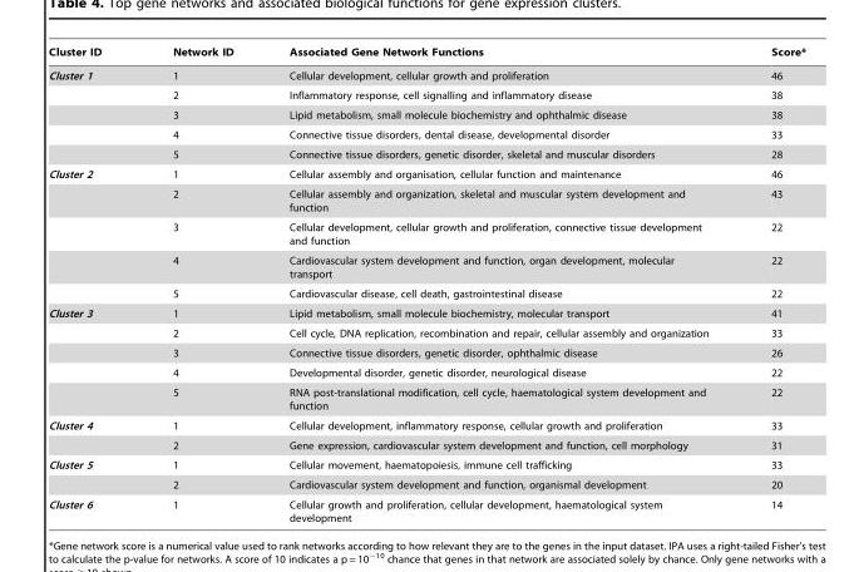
<table><thead><tr><td>Cluster ID</td><td>Network ID</td><td>Associated Gene Network Functions</td><td>Score*</td></tr></thead><tbody><tr><td rowspan="5">Cluster 1</td><td>1</td><td>Cellular development, cellular growth and proliferation</td><td>46</td></tr><tr><td>2</td><td>Inflammatory response, cell signalling and inflammatory disease</td><td>38</td></tr><tr><td>3</td><td>Lipid metabolism, small molecule biochemistry and ophthalmic disease</td><td>38</td></tr><tr><td>4</td><td>Connective tissue disorders, dental disease, developmental disorder</td><td>33</td></tr><tr><td>5</td><td>Connective tissue disorders, genetic disorder, skeletal and muscular disorders</td><td>28</td></tr><tr><td rowspan="5">Cluster 2</td><td>1</td><td>Cellular assembly and organisation, cellular function and maintenance</td><td>46</td></tr><tr><td>2</td><td>Cellular assembly and organization, skeletal and muscular system development and function</td><td>43</td></tr><tr><td>3</td><td>Cellular development, cellular growth and proliferation, connective tissue development and function</td><td>22</td></tr><tr><td>4</td><td>Cardiovascular system development and function, organ development, molecular transport</td><td>22</td></tr><tr><td>5</td><td>Cardiovascular disease, cell death, gastrointestinal disease</td><td>22</td></tr><tr><td rowspan="5">Cluster 3</td><td>1</td><td>Lipid metabolism, small molecule biochemistry, molecular transport</td><td>41</td></tr><tr><td>2</td><td>Cell cycle, DNA replication, recombination and repair, cellular assembly and organization</td><td>33</td></tr><tr><td>3</td><td>Connective tissue disorders, genetic disorder, ophthalmic disease</td><td>26</td></tr><tr><td>4</td><td>Developmental disorder, genetic disorder, neurological disease</td><td>22</td></tr><tr><td>5</td><td>RNA post-translational modification, cell cycle, haematological system development and function</td><td>22</td></tr><tr><td rowspan="2">Cluster 4</td><td>1</td><td>Cellular development, inflammatory response, cellular growth and proliferation</td><td>33</td></tr><tr><td>2</td><td>Gene expression, cardiovascular system development and function, cell morphology</td><td>31</td></tr><tr><td rowspan="2">Cluster 5</td><td>1</td><td>Cellular movement, haematopoiesis, immune cell trafficking</td><td>33</td></tr><tr><td>2</td><td>Cardiovascular system development and function, organismal development</td><td>20</td></tr><tr><td>Cluster 6</td><td>1</td><td>Cellular growth and proliferation, cellular development, haematological system development</td><td>14</td></tr></tbody></table>